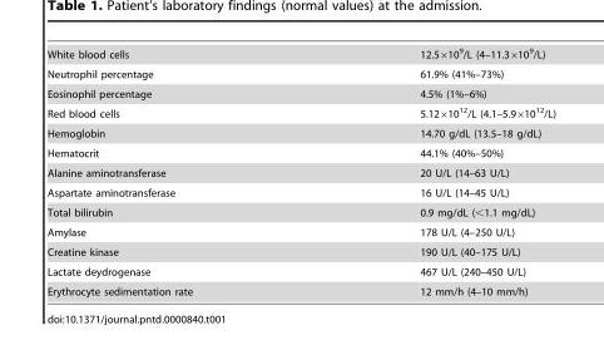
<table><tbody><tr><td>White blood cells</td><td>12.5×10<sup>9</sup>/L (4–11.3×10<sup>9</sup>/L)</td></tr><tr><td>Neutrophil percentage</td><td>61.9% (41%–73%)</td></tr><tr><td>Eosinophil percentage</td><td>4.5% (1%–6%)</td></tr><tr><td>Red blood cells</td><td>5.12×10<sup>12</sup>/L (4.1–5.9×10<sup>12</sup>/L)</td></tr><tr><td>Hemoglobin</td><td>14.70 g/dL (13.5–18 g/dL)</td></tr><tr><td>Hematocrit</td><td>44.1% (40%–50%)</td></tr><tr><td>Alanine aminotransferase</td><td>20 U/L (14–63 U/L)</td></tr><tr><td>Aspartate aminotransferase</td><td>16 U/L (14–45 U/L)</td></tr><tr><td>Total bilirubin</td><td>0.9 mg/dL (&lt;1.1 mg/dL)</td></tr><tr><td>Amylase</td><td>178 U/L (4–250 U/L)</td></tr><tr><td>Creatine kinase</td><td>190 U/L (40–175 U/L)</td></tr><tr><td>Lactate deydrogenase</td><td>467 U/L (240–450 U/L)</td></tr><tr><td>Erythrocyte sedimentation rate</td><td>12 mm/h (4–10 mm/h)</td></tr></tbody></table>